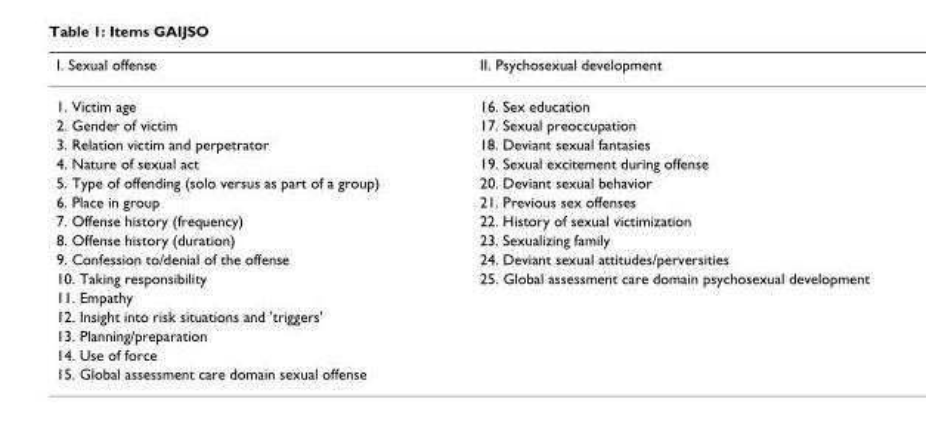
<table><thead><tr><td>I. Sexual offense</td><td>II. Psychosexual development</td></tr></thead><tbody><tr><td>1. Victim age</td><td>16. Sex education</td></tr><tr><td>2. Gender of victim</td><td>17. Sexual preoccupation</td></tr><tr><td>3. Relation victim and perpetrator</td><td>18. Deviant sexual fantasies</td></tr><tr><td>4. Nature of sexual act</td><td>19. Sexual excitement during offense</td></tr><tr><td>5. Type of offending (solo versus as part of a group)</td><td>20. Deviant sexual behavior</td></tr><tr><td>6. Place in group</td><td>21. Previous sex offenses</td></tr><tr><td>7. Offense history (frequency)</td><td>22. History of sexual victimization</td></tr><tr><td>8. Offense history (duration)</td><td>23. Sexualizing family</td></tr><tr><td>9. Confession to/denial of the offense</td><td>24. Deviant sexual attitudes/perversities</td></tr><tr><td>10. Taking responsibility</td><td>25. Global assessment care domain psychosexual development</td></tr><tr><td colspan="2">11. Empathy</td></tr><tr><td colspan="2">12. Insight into risk situations and &#x27;triggers&#x27;</td></tr><tr><td colspan="2">13. Planning/preparation</td></tr><tr><td colspan="2">14. Use of force</td></tr><tr><td>15. Global assessment care domain sexual offense</td><td></td></tr></tbody></table>